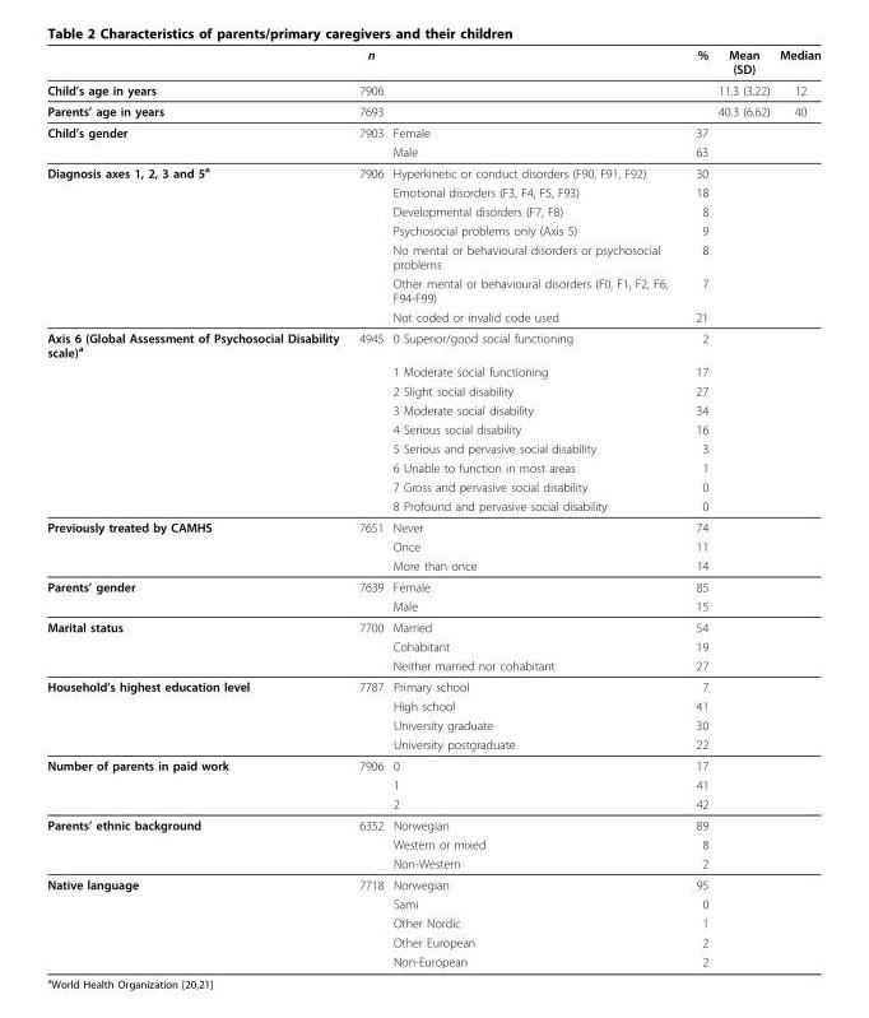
<table><thead><tr><td></td><td>n</td><td></td><td>%</td><td>Mean (SD)</td><td>Median</td></tr></thead><tbody><tr><td>Child’s age in years</td><td>7906</td><td></td><td></td><td>11.3 (3.22)</td><td>12</td></tr><tr><td>Parents’ age in years</td><td>7693</td><td></td><td></td><td>40.3 (6.62)</td><td>40</td></tr><tr><td rowspan="2">Child’s gender</td><td>7903</td><td>Female</td><td>37</td><td></td><td></td></tr><tr><td></td><td>Male</td><td>63</td><td></td><td></td></tr><tr><td rowspan="7">Diagnosis axes 1, 2, 3 and 5<sup>a</sup></td><td>7906</td><td>Hyperkinetic or conduct disorders (F90, F91, F92)</td><td>30</td><td></td><td></td></tr><tr><td></td><td>Emotional disorders (F3, F4, F5, F93)</td><td>18</td><td></td><td></td></tr><tr><td></td><td>Developmental disorders (F7, F8)</td><td>8</td><td></td><td></td></tr><tr><td></td><td>Psychosocial problems only (Axis 5)</td><td>9</td><td></td><td></td></tr><tr><td></td><td>No mental or behavioural disorders or psychosocial problems</td><td>8</td><td></td><td></td></tr><tr><td></td><td>Other mental or behavioural disorders (F0, F1, F2, F6, F94-F99)</td><td>7</td><td></td><td></td></tr><tr><td></td><td>Not coded or invalid code used</td><td>21</td><td></td><td></td></tr><tr><td rowspan="9">Axis 6 (Global Assessment of Psychosocial Disability scale)<sup>a</sup></td><td>4945</td><td>0 Superior/good social functioning</td><td>2</td><td></td><td></td></tr><tr><td></td><td>1 Moderate social functioning</td><td>17</td><td></td><td></td></tr><tr><td></td><td>2 Slight social disability</td><td>27</td><td></td><td></td></tr><tr><td></td><td>3 Moderate social disability</td><td>34</td><td></td><td></td></tr><tr><td></td><td>4 Serious social disability</td><td>16</td><td></td><td></td></tr><tr><td></td><td>5 Serious and pervasive social disability</td><td>3</td><td></td><td></td></tr><tr><td></td><td>6 Unable to function in most areas</td><td>1</td><td></td><td></td></tr><tr><td></td><td>7 Gross and pervasive social disability</td><td>0</td><td></td><td></td></tr><tr><td></td><td>8 Profound and pervasive social disability</td><td>0</td><td></td><td></td></tr><tr><td rowspan="3">Previously treated by CAMHS</td><td>7651</td><td>Never</td><td>74</td><td></td><td></td></tr><tr><td></td><td>Once</td><td>11</td><td></td><td></td></tr><tr><td></td><td>More than once</td><td>14</td><td></td><td></td></tr><tr><td rowspan="2">Parents’ gender</td><td>7639</td><td>Female</td><td>85</td><td></td><td></td></tr><tr><td></td><td>Male</td><td>15</td><td></td><td></td></tr><tr><td rowspan="3">Marital status</td><td>7700</td><td>Married</td><td>54</td><td></td><td></td></tr><tr><td></td><td>Cohabitant</td><td>19</td><td></td><td></td></tr><tr><td></td><td>Neither married nor cohabitant</td><td>27</td><td></td><td></td></tr><tr><td rowspan="4">Household’s highest education level</td><td>7787</td><td>Primary school</td><td>7</td><td></td><td></td></tr><tr><td></td><td>High school</td><td>41</td><td></td><td></td></tr><tr><td></td><td>University graduate</td><td>30</td><td></td><td></td></tr><tr><td></td><td>University postgraduate</td><td>22</td><td></td><td></td></tr><tr><td rowspan="3">Number of parents in paid work</td><td>7906</td><td>0</td><td>17</td><td></td><td></td></tr><tr><td></td><td>1</td><td>41</td><td></td><td></td></tr><tr><td></td><td>2</td><td>42</td><td></td><td></td></tr><tr><td rowspan="3">Parents’ ethnic background</td><td>6352</td><td>Norwegian</td><td>89</td><td></td><td></td></tr><tr><td></td><td>Western or mixed</td><td>8</td><td></td><td></td></tr><tr><td></td><td>Non-Western</td><td>2</td><td></td><td></td></tr><tr><td rowspan="5">Native language</td><td>7718</td><td>Norwegian</td><td>95</td><td></td><td></td></tr><tr><td></td><td>Sami</td><td>0</td><td></td><td></td></tr><tr><td></td><td>Other Nordic</td><td>1</td><td></td><td></td></tr><tr><td></td><td>Other European</td><td>2</td><td></td><td></td></tr><tr><td></td><td>Non-European</td><td>2</td><td></td><td></td></tr></tbody></table>